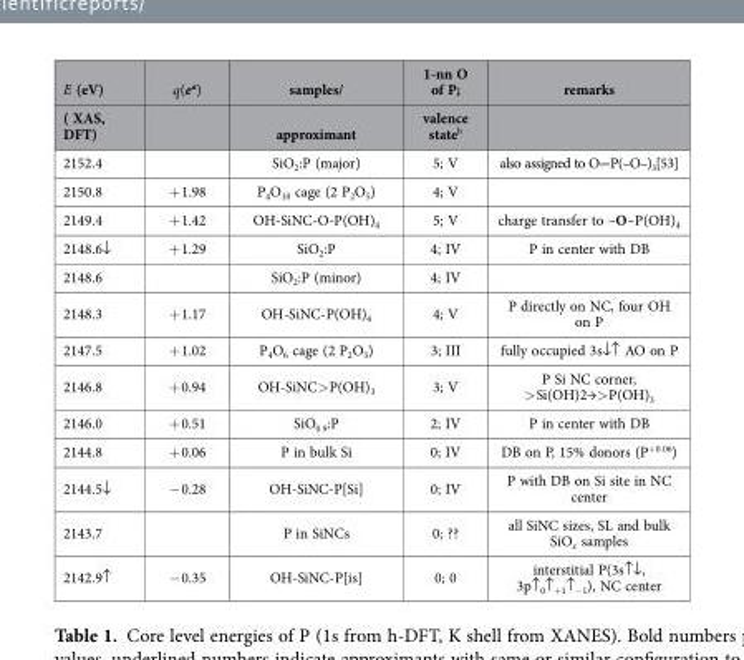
<table><thead><tr><td rowspan="2">E (eV) ( XAS, DFT)</td><td rowspan="2">q(e<sup>a</sup>)</td><td rowspan="2">samples/ approximant</td><td rowspan="2">1-nn O of P; valence state<sup>b</sup></td><td rowspan="2">remarks</td></tr><tr></tr></thead><tbody><tr><td>2152.4</td><td></td><td>SiO<sub>2</sub>:P (major)</td><td>5; V</td><td>also assigned to O= P(–O–)<sub>3</sub>[53]</td></tr><tr><td>2150.8</td><td>+ 1.98</td><td>P<sub>4</sub>O<sub>10</sub> cage (2 P<sub>2</sub>O<sub>5</sub>)</td><td>4; V</td><td></td></tr><tr><td>2149.4</td><td>+ 1.42</td><td>OH-SiNC-O-P(OH)<sub>4</sub></td><td>5; V</td><td>charge transfer to –O–P(OH)<sub>4</sub></td></tr><tr><td>2148.6Ø</td><td>+ 1.29</td><td>SiO<sub>2</sub>:P</td><td>4; IV</td><td>P in center with DB</td></tr><tr><td>2148.6</td><td></td><td>SiO<sub>2</sub>:P (minor)</td><td>4; IV</td><td></td></tr><tr><td>2148.3</td><td>+ 1.17</td><td>OH-SiNC-P(OH)<sub>4</sub></td><td>4; V</td><td>P directly on NC, four OH on P</td></tr><tr><td>2147.5</td><td>+ 1.02</td><td>P<sub>4</sub>O<sub>6</sub> cage (2 P<sub>2</sub>O<sub>3</sub>)</td><td>3; III</td><td>fully occupied 3sØ≠ AO on P</td></tr><tr><td>2146.8</td><td>+ 0.94</td><td>OH-SiNC&gt; P(OH)<sub>3</sub></td><td>3; V</td><td>P Si NC corner, &gt; Si(OH)2→&gt; P(OH)<sub>3</sub></td></tr><tr><td>2146.0</td><td>+ 0.51</td><td>SiO<sub>0.9</sub>:P</td><td>2; IV</td><td>P in center with DB</td></tr><tr><td>2144.8</td><td>+ 0.06</td><td>P in bulk Si</td><td>0; IV</td><td>DB on P, 15% donors (P<sup>+0.06</sup>)</td></tr><tr><td>2144.5Ø</td><td>− 0.28</td><td>OH-SiNC-P[Si]</td><td>0; IV</td><td>P with DB on Si site in NC center</td></tr><tr><td>2143.7</td><td></td><td>P in SiNCs</td><td>0; ??</td><td>all SiNC sizes, SL and bulk SiO<sub>x</sub> samples</td></tr><tr><td>2142.9≠</td><td>− 0.35</td><td>OH-SiNC-P[is]</td><td>0; 0</td><td>interstitial P(3s≠Ø, 3p<sub>≠0≠+1≠−1</sub>), NC center</td></tr></tbody></table>